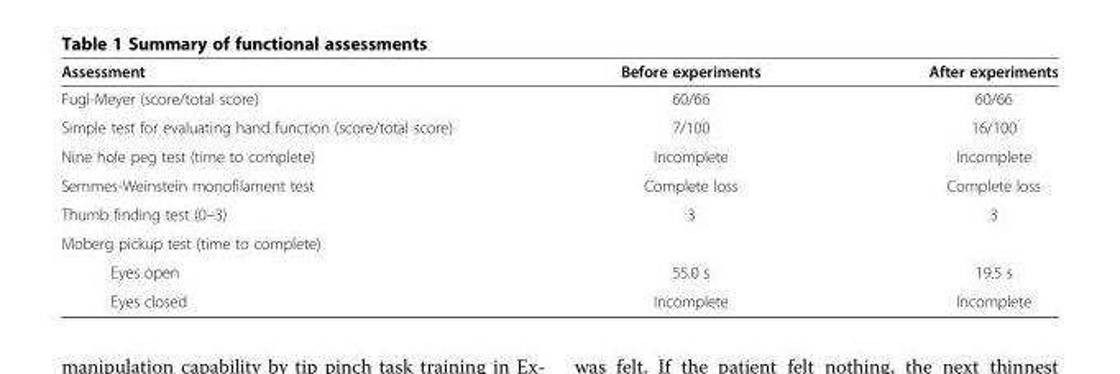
<table><thead><tr><td>Assessment</td><td>Before experiments</td><td>After experiments</td></tr></thead><tbody><tr><td>Fugl-Meyer (score/total score)</td><td>60/66</td><td>60/66</td></tr><tr><td>Simple test for evaluating hand function (score/total score)</td><td>7/100</td><td>16/100</td></tr><tr><td>Nine hole peg test (time to complete)</td><td>Incomplete</td><td>Incomplete</td></tr><tr><td>Semmes-Weinstein monofilament test</td><td>Complete loss</td><td>Complete loss</td></tr><tr><td>Thumb finding test (0–3)</td><td>3</td><td>3</td></tr><tr><td colspan="3">Moberg pickup test (time to complete)</td></tr><tr><td>Eyes open</td><td>55.0 s</td><td>19.5 s</td></tr><tr><td>Eyes closed</td><td>Incomplete</td><td>Incomplete</td></tr></tbody></table>